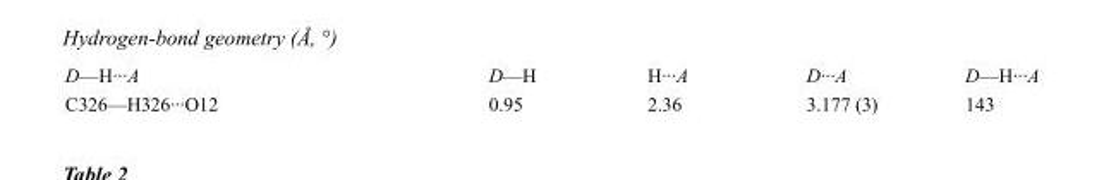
<table><tbody><tr><td>D—H···A</td><td>D—H</td><td>H···A</td><td>D···A</td><td>D—H···A</td></tr><tr><td>C326—H326···O12</td><td>0.95</td><td>2.36</td><td>3.177 (3)</td><td>143</td></tr></tbody></table>